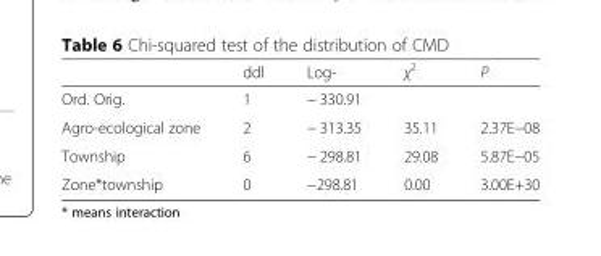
<table><thead><tr><td></td><td>ddl</td><td>Log-</td><td>χ<sup>2</sup></td><td>P</td></tr></thead><tbody><tr><td>Ord. Orig.</td><td>1</td><td>− 330.91</td><td></td><td></td></tr><tr><td>Agro-ecological zone</td><td>2</td><td>− 313.35</td><td>35.11</td><td>2.37E−08</td></tr><tr><td>Township</td><td>6</td><td>− 298.81</td><td>29.08</td><td>5.87E−05</td></tr><tr><td>Zone*township</td><td>0</td><td>−298.81</td><td>0.00</td><td>3.00E+30</td></tr></tbody></table>